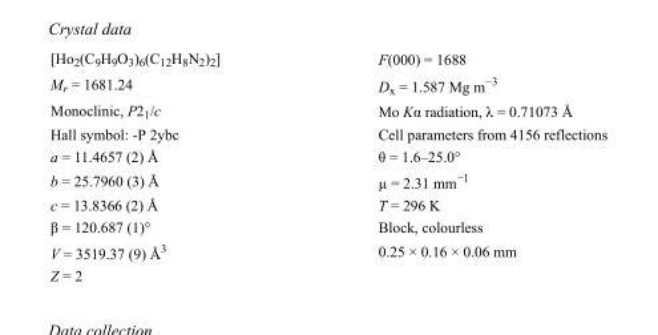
<table><tbody><tr><td>[Ho<sub>2</sub>(C<sub>9</sub>H<sub>9</sub>O<sub>3</sub>)<sub>6</sub>(C<sub>12</sub>H<sub>8</sub>N<sub>2</sub>)<sub>2</sub>]</td><td>F(000) = 1688</td></tr><tr><td>M<sub>r</sub> = 1681.24</td><td>D<sub>x</sub> = 1.587 Mg m<sup>−3</sup></td></tr><tr><td>Monoclinic, P2<sub>1</sub>/c</td><td>Mo Kα radiation, λ = 0.71073 Å</td></tr><tr><td>Hall symbol: -P 2ybc</td><td>Cell parameters from 4156 reflections</td></tr><tr><td>a = 11.4657 (2) Å</td><td>θ = 1.6–25.0°</td></tr><tr><td>b = 25.7960 (3) Å</td><td>µ = 2.31 mm<sup>−1</sup></td></tr><tr><td>c = 13.8366 (2) Å</td><td>T = 296 K</td></tr><tr><td>β = 120.687 (1)°</td><td>Block, colourless</td></tr><tr><td>V = 3519.37 (9) Å<sup>3</sup></td><td>0.25 × 0.16 × 0.06 mm</td></tr><tr><td>Z = 2</td><td></td></tr></tbody></table>